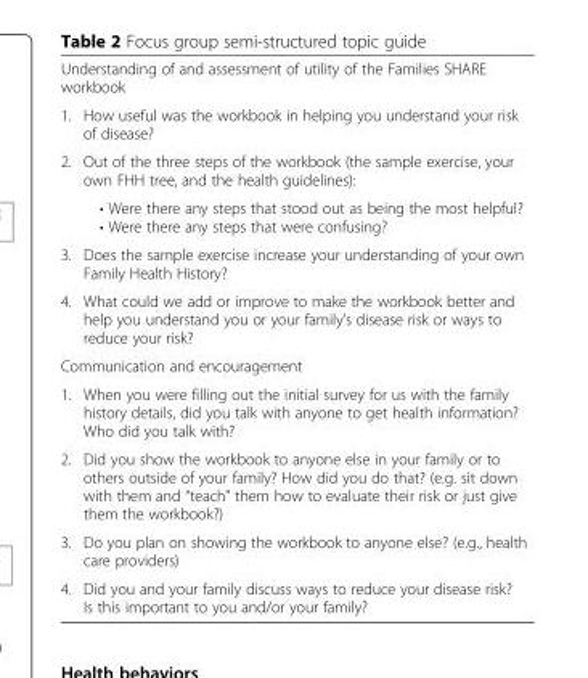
<table><tbody><tr><td colspan="2">Understanding of and assessment of utility of the Families SHARE workbook</td></tr><tr><td>1.</td><td>How useful was the workbook in helping you understand your risk of disease?</td></tr><tr><td rowspan="2">2.</td><td>Out of the three steps of the workbook (the sample exercise, your own FHH tree, and the health guidelines):</td></tr><tr><td>• Were there any steps that stood out as being the most helpful? • Were there any steps that were confusing?</td></tr><tr><td>3.</td><td>Does the sample exercise increase your understanding of your own Family Health History?</td></tr><tr><td>4.</td><td>What could we add or improve to make the workbook better and help you understand you or your family’s disease risk or ways to reduce your risk?</td></tr><tr><td colspan="2">Communication and encouragement</td></tr><tr><td>1.</td><td>When you were filling out the initial survey for us with the family history details, did you talk with anyone to get health information? Who did you talk with?</td></tr><tr><td>2.</td><td>Did you show the workbook to anyone else in your family or to others outside of your family? How did you do that? (e.g. sit down with them and “teach” them how to evaluate their risk or just give them the workbook?)</td></tr><tr><td>3.</td><td>Do you plan on showing the workbook to anyone else? (e.g., health care providers)</td></tr><tr><td>4.</td><td>Did you and your family discuss ways to reduce your disease risk? Is this important to you and/or your family?</td></tr></tbody></table>